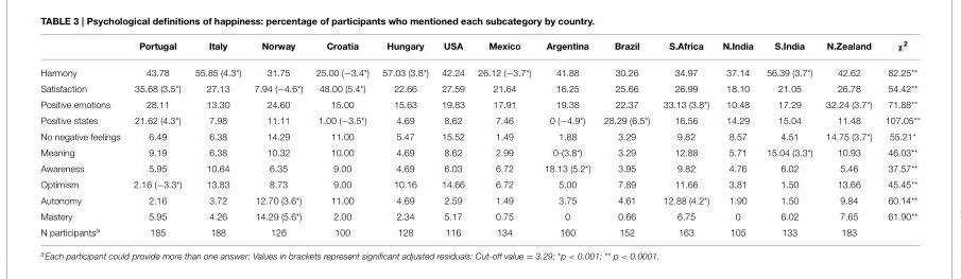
<table><thead><tr><td></td><td>Portugal</td><td>Italy</td><td>Norway</td><td>Croatia</td><td>Hungary</td><td>USA</td><td>Mexico</td><td>Argentina</td><td>Brazil</td><td>S.Africa</td><td>N.India</td><td>S.India</td><td>N.Zealand</td><td>χ<sup>2</sup></td></tr></thead><tbody><tr><td>Harmony</td><td>43.78</td><td>55.85 (4.3*)</td><td>31.75</td><td>25.00 (−3.4*)</td><td>57.03 (3.8*)</td><td>42.24</td><td>26.12 (−3.7*)</td><td>41.88</td><td>30.26</td><td>34.97</td><td>37.14</td><td>56.39 (3.7*)</td><td>42.62</td><td>82.25**</td></tr><tr><td>Satisfaction</td><td>35.68 (3.5*)</td><td>27.13</td><td>7.94 (−4.6*)</td><td>48.00 (5.4*)</td><td>22.66</td><td>27.59</td><td>21.64</td><td>16.25</td><td>25.66</td><td>26.99</td><td>18.10</td><td>21.05</td><td>26.78</td><td>54.42**</td></tr><tr><td>Positive emotions</td><td>28.11</td><td>13.30</td><td>24.60</td><td>15.00</td><td>15.63</td><td>19.83</td><td>17.91</td><td>19.38</td><td>22.37</td><td>33.13 (3.8*)</td><td>10.48</td><td>17.29</td><td>32.24 (3.7*)</td><td>71.88**</td></tr><tr><td>Positive states</td><td>21.62 (4.3*)</td><td>7.98</td><td>11.11</td><td>1.00 (−3.5*)</td><td>4.69</td><td>8.62</td><td>7.46</td><td>0 (−4.9*)</td><td>28.29 (6.5*)</td><td>16.56</td><td>14.29</td><td>15.04</td><td>11.48</td><td>107.05**</td></tr><tr><td>No negative feelings</td><td>6.49</td><td>6.38</td><td>14.29</td><td>11.00</td><td>5.47</td><td>15.52</td><td>1.49</td><td>1.88</td><td>3.29</td><td>9.82</td><td>8.57</td><td>4.51</td><td>14.75 (3.7*)</td><td>55.21*</td></tr><tr><td>Meaning</td><td>9.19</td><td>6.38</td><td>10.32</td><td>10.00</td><td>4.69</td><td>8.62</td><td>2.99</td><td>0-(3.8*)</td><td>3.29</td><td>12.88</td><td>5.71</td><td>15.04 (3.3*)</td><td>10.93</td><td>46.03**</td></tr><tr><td>Awareness</td><td>5.95</td><td>10.64</td><td>6.35</td><td>9.00</td><td>4.69</td><td>6.03</td><td>6.72</td><td>18.13 (5.2*)</td><td>3.95</td><td>9.82</td><td>4.76</td><td>6.02</td><td>5.46</td><td>37.57**</td></tr><tr><td>Optimism</td><td>2.16 (−3.3*)</td><td>13.83</td><td>8.73</td><td>9.00</td><td>10.16</td><td>14.66</td><td>6.72</td><td>5.00</td><td>7.89</td><td>11.66</td><td>3.81</td><td>1.50</td><td>13.66</td><td>45.45**</td></tr><tr><td>Autonomy</td><td>2.16</td><td>3.72</td><td>12.70 (3.6*)</td><td>11.00</td><td>4.69</td><td>2.59</td><td>1.49</td><td>3.75</td><td>4.61</td><td>12.88 (4.2*)</td><td>1.90</td><td>1.50</td><td>9.84</td><td>60.14**</td></tr><tr><td>Mastery</td><td>5.95</td><td>4.26</td><td>14.29 (5.6*)</td><td>2.00</td><td>2.34</td><td>5.17</td><td>0.75</td><td>0</td><td>0.66</td><td>6.75</td><td>0</td><td>6.02</td><td>7.65</td><td>61.90**</td></tr><tr><td>N participants<sup>a</sup></td><td>185</td><td>188</td><td>126</td><td>100</td><td>128</td><td>116</td><td>134</td><td>160</td><td>152</td><td>163</td><td>105</td><td>133</td><td>183</td><td></td></tr></tbody></table>